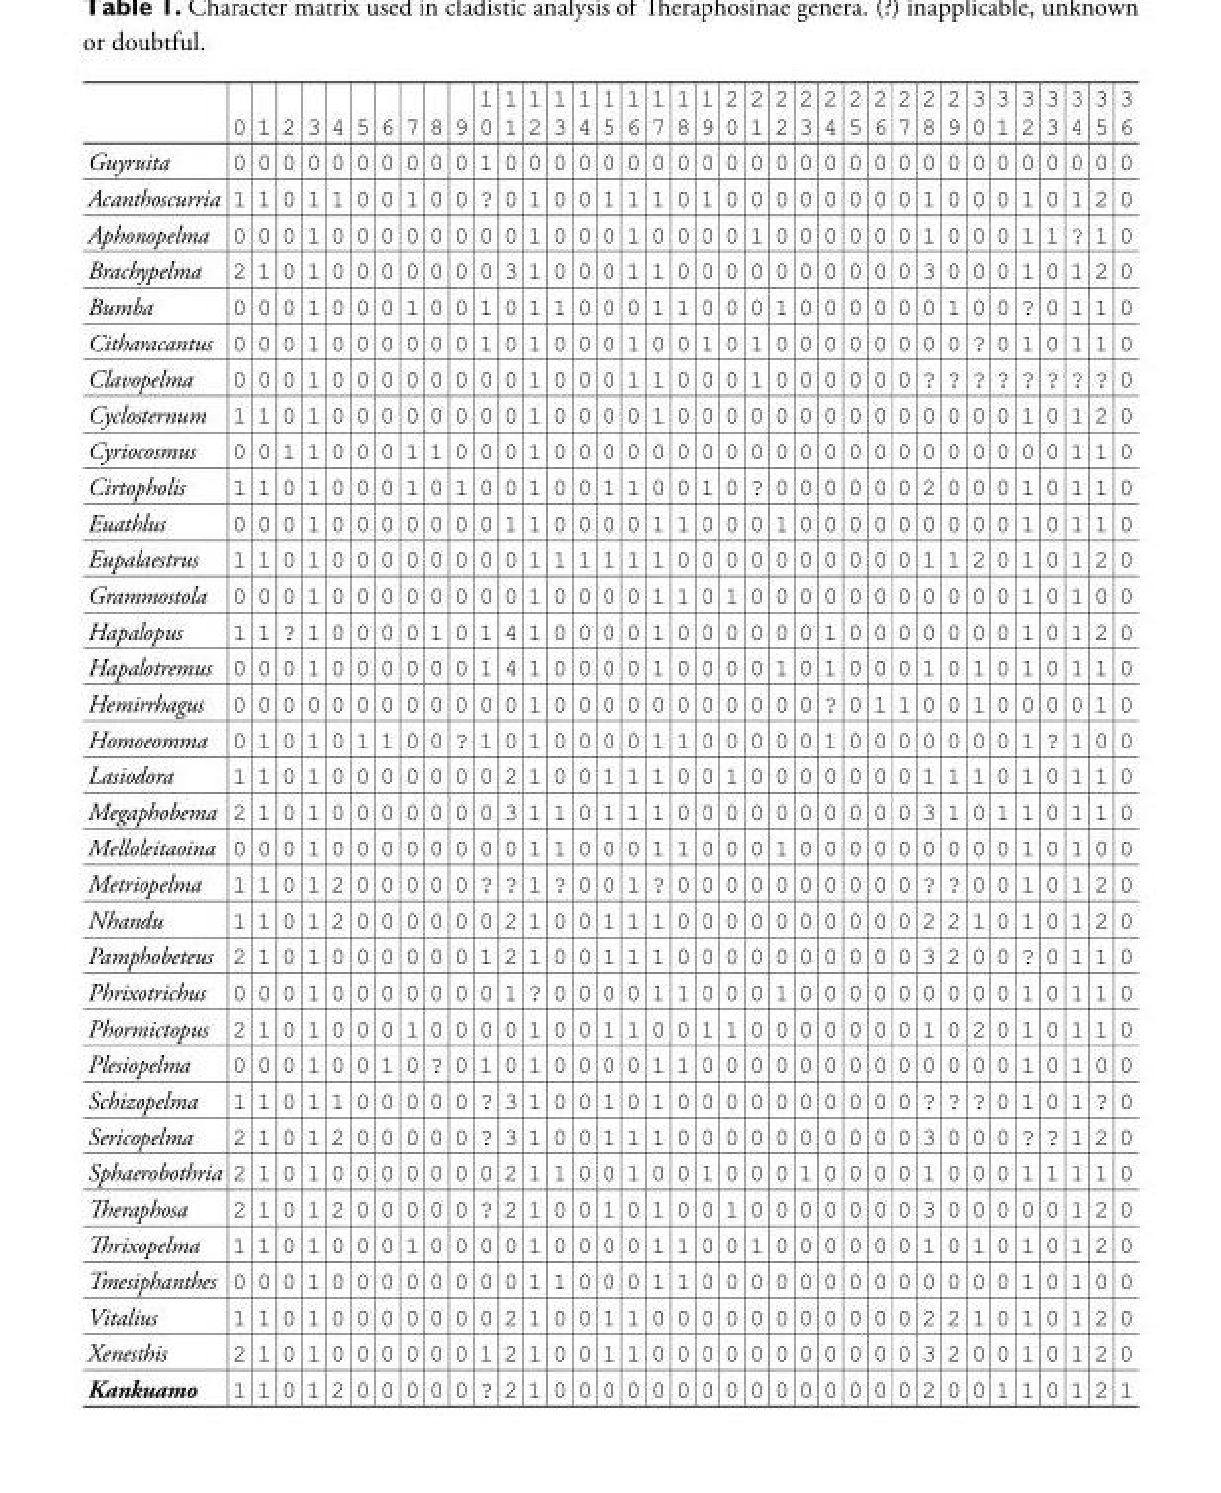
<table><thead><tr><td></td><td>0</td><td>1</td><td>2</td><td>3</td><td>4</td><td>5</td><td>6</td><td>7</td><td>8</td><td>9</td><td>1 0</td><td>1 1</td><td>1 2</td><td>1 3</td><td>1 4</td><td>1 5</td><td>1 6</td><td>1 7</td><td>1 8</td><td>1 9</td><td>2 0</td><td>2 1</td><td>2 2</td><td>2 3</td><td>2 4</td><td>2 5</td><td>2 6</td><td>2 7</td><td>2 8</td><td>2 9</td><td>3 0</td><td>3 1</td><td>3 2</td><td>3 3</td><td>3 4</td><td>3 5</td><td>3 6</td></tr></thead><tbody><tr><td>Guyruita</td><td>0</td><td>0</td><td>0</td><td>0</td><td>0</td><td>0</td><td>0</td><td>0</td><td>0</td><td>0</td><td>1</td><td>0</td><td>0</td><td>0</td><td>0</td><td>0</td><td>0</td><td>0</td><td>0</td><td>0</td><td>0</td><td>0</td><td>0</td><td>0</td><td>0</td><td>0</td><td>0</td><td>0</td><td>0</td><td>0</td><td>0</td><td>0</td><td>0</td><td>0</td><td>0</td><td>0</td><td>0</td></tr><tr><td>Acanthoscurria</td><td>1</td><td>1</td><td>0</td><td>1</td><td>1</td><td>0</td><td>0</td><td>1</td><td>0</td><td>0</td><td>?</td><td>0</td><td>1</td><td>0</td><td>0</td><td>1</td><td>1</td><td>1</td><td>0</td><td>1</td><td>0</td><td>0</td><td>0</td><td>0</td><td>0</td><td>0</td><td>0</td><td>0</td><td>1</td><td>0</td><td>0</td><td>0</td><td>1</td><td>0</td><td>1</td><td>2</td><td>0</td></tr><tr><td>Aphonopelma</td><td>0</td><td>0</td><td>0</td><td>1</td><td>0</td><td>0</td><td>0</td><td>0</td><td>0</td><td>0</td><td>0</td><td>0</td><td>1</td><td>0</td><td>0</td><td>0</td><td>1</td><td>0</td><td>0</td><td>0</td><td>0</td><td>1</td><td>0</td><td>0</td><td>0</td><td>0</td><td>0</td><td>0</td><td>1</td><td>0</td><td>0</td><td>0</td><td>1</td><td>1</td><td>?</td><td>1</td><td>0</td></tr><tr><td>Brachypelma</td><td>2</td><td>1</td><td>0</td><td>1</td><td>0</td><td>0</td><td>0</td><td>0</td><td>0</td><td>0</td><td>0</td><td>3</td><td>1</td><td>0</td><td>0</td><td>0</td><td>1</td><td>1</td><td>0</td><td>0</td><td>0</td><td>0</td><td>0</td><td>0</td><td>0</td><td>0</td><td>0</td><td>0</td><td>3</td><td>0</td><td>0</td><td>0</td><td>1</td><td>0</td><td>1</td><td>2</td><td>0</td></tr><tr><td>Bumba</td><td>0</td><td>0</td><td>0</td><td>1</td><td>0</td><td>0</td><td>0</td><td>1</td><td>0</td><td>0</td><td>1</td><td>0</td><td>1</td><td>1</td><td>0</td><td>0</td><td>0</td><td>1</td><td>1</td><td>0</td><td>0</td><td>0</td><td>1</td><td>0</td><td>0</td><td>0</td><td>0</td><td>0</td><td>0</td><td>1</td><td>0</td><td>0</td><td>?</td><td>0</td><td>1</td><td>1</td><td>0</td></tr><tr><td>Citharacantus</td><td>0</td><td>0</td><td>0</td><td>1</td><td>0</td><td>0</td><td>0</td><td>0</td><td>0</td><td>0</td><td>1</td><td>0</td><td>1</td><td>0</td><td>0</td><td>0</td><td>1</td><td>0</td><td>0</td><td>1</td><td>0</td><td>1</td><td>0</td><td>0</td><td>0</td><td>0</td><td>0</td><td>0</td><td>0</td><td>0</td><td>?</td><td>0</td><td>1</td><td>0</td><td>1</td><td>1</td><td>0</td></tr><tr><td>Clavopelma</td><td>0</td><td>0</td><td>0</td><td>1</td><td>0</td><td>0</td><td>0</td><td>0</td><td>0</td><td>0</td><td>0</td><td>0</td><td>1</td><td>0</td><td>0</td><td>0</td><td>1</td><td>1</td><td>0</td><td>0</td><td>0</td><td>1</td><td>0</td><td>0</td><td>0</td><td>0</td><td>0</td><td>0</td><td>?</td><td>?</td><td>?</td><td>?</td><td>?</td><td>?</td><td>?</td><td>?</td><td>0</td></tr><tr><td>Cyclosternum</td><td>1</td><td>1</td><td>0</td><td>1</td><td>0</td><td>0</td><td>0</td><td>0</td><td>0</td><td>0</td><td>0</td><td>0</td><td>1</td><td>0</td><td>0</td><td>0</td><td>0</td><td>1</td><td>0</td><td>0</td><td>0</td><td>0</td><td>0</td><td>0</td><td>0</td><td>0</td><td>0</td><td>0</td><td>0</td><td>0</td><td>0</td><td>0</td><td>1</td><td>0</td><td>1</td><td>2</td><td>0</td></tr><tr><td>Cyriocosmus</td><td>0</td><td>0</td><td>1</td><td>1</td><td>0</td><td>0</td><td>0</td><td>1</td><td>1</td><td>0</td><td>0</td><td>0</td><td>1</td><td>0</td><td>0</td><td>0</td><td>0</td><td>0</td><td>0</td><td>0</td><td>0</td><td>0</td><td>0</td><td>0</td><td>0</td><td>0</td><td>0</td><td>0</td><td>0</td><td>0</td><td>0</td><td>0</td><td>0</td><td>0</td><td>1</td><td>1</td><td>0</td></tr><tr><td>Cirtopholis</td><td>1</td><td>1</td><td>0</td><td>1</td><td>0</td><td>0</td><td>0</td><td>1</td><td>0</td><td>1</td><td>0</td><td>0</td><td>1</td><td>0</td><td>0</td><td>1</td><td>1</td><td>0</td><td>0</td><td>1</td><td>0</td><td>?</td><td>0</td><td>0</td><td>0</td><td>0</td><td>0</td><td>0</td><td>2</td><td>0</td><td>0</td><td>0</td><td>1</td><td>0</td><td>1</td><td>1</td><td>0</td></tr><tr><td>Euathlus</td><td>0</td><td>0</td><td>0</td><td>1</td><td>0</td><td>0</td><td>0</td><td>0</td><td>0</td><td>0</td><td>0</td><td>1</td><td>1</td><td>0</td><td>0</td><td>0</td><td>0</td><td>1</td><td>1</td><td>0</td><td>0</td><td>0</td><td>1</td><td>0</td><td>0</td><td>0</td><td>0</td><td>0</td><td>0</td><td>0</td><td>0</td><td>0</td><td>1</td><td>0</td><td>1</td><td>1</td><td>0</td></tr><tr><td>Eupalaestrus</td><td>1</td><td>1</td><td>0</td><td>1</td><td>0</td><td>0</td><td>0</td><td>0</td><td>0</td><td>0</td><td>0</td><td>0</td><td>1</td><td>1</td><td>1</td><td>1</td><td>1</td><td>1</td><td>0</td><td>0</td><td>0</td><td>0</td><td>0</td><td>0</td><td>0</td><td>0</td><td>0</td><td>0</td><td>1</td><td>1</td><td>2</td><td>0</td><td>1</td><td>0</td><td>1</td><td>2</td><td>0</td></tr><tr><td>Grammostola</td><td>0</td><td>0</td><td>0</td><td>1</td><td>0</td><td>0</td><td>0</td><td>0</td><td>0</td><td>0</td><td>0</td><td>0</td><td>1</td><td>0</td><td>0</td><td>0</td><td>0</td><td>1</td><td>1</td><td>0</td><td>1</td><td>0</td><td>0</td><td>0</td><td>0</td><td>0</td><td>0</td><td>0</td><td>0</td><td>0</td><td>0</td><td>0</td><td>1</td><td>0</td><td>1</td><td>0</td><td>0</td></tr><tr><td>Hapalopus</td><td>1</td><td>1</td><td>?</td><td>1</td><td>0</td><td>0</td><td>0</td><td>0</td><td>1</td><td>0</td><td>1</td><td>4</td><td>1</td><td>0</td><td>0</td><td>0</td><td>0</td><td>1</td><td>0</td><td>0</td><td>0</td><td>0</td><td>0</td><td>0</td><td>1</td><td>0</td><td>0</td><td>0</td><td>0</td><td>0</td><td>0</td><td>0</td><td>1</td><td>0</td><td>1</td><td>2</td><td>0</td></tr><tr><td>Hapalotremus</td><td>0</td><td>0</td><td>0</td><td>1</td><td>0</td><td>0</td><td>0</td><td>0</td><td>0</td><td>0</td><td>1</td><td>4</td><td>1</td><td>0</td><td>0</td><td>0</td><td>0</td><td>1</td><td>0</td><td>0</td><td>0</td><td>0</td><td>1</td><td>0</td><td>1</td><td>0</td><td>0</td><td>0</td><td>1</td><td>0</td><td>1</td><td>0</td><td>1</td><td>0</td><td>1</td><td>1</td><td>0</td></tr><tr><td>Hemirrhagus</td><td>0</td><td>0</td><td>0</td><td>0</td><td>0</td><td>0</td><td>0</td><td>0</td><td>0</td><td>0</td><td>0</td><td>0</td><td>1</td><td>0</td><td>0</td><td>0</td><td>0</td><td>0</td><td>0</td><td>0</td><td>0</td><td>0</td><td>0</td><td>0</td><td>?</td><td>0</td><td>1</td><td>1</td><td>0</td><td>0</td><td>1</td><td>0</td><td>0</td><td>0</td><td>0</td><td>1</td><td>0</td></tr><tr><td>Homoeomma</td><td>0</td><td>1</td><td>0</td><td>1</td><td>0</td><td>1</td><td>1</td><td>0</td><td>0</td><td>?</td><td>1</td><td>0</td><td>1</td><td>0</td><td>0</td><td>0</td><td>0</td><td>1</td><td>1</td><td>0</td><td>0</td><td>0</td><td>0</td><td>0</td><td>1</td><td>0</td><td>0</td><td>0</td><td>0</td><td>0</td><td>0</td><td>0</td><td>1</td><td>?</td><td>1</td><td>0</td><td>0</td></tr><tr><td>Lasiodora</td><td>1</td><td>1</td><td>0</td><td>1</td><td>0</td><td>0</td><td>0</td><td>0</td><td>0</td><td>0</td><td>0</td><td>2</td><td>1</td><td>0</td><td>0</td><td>1</td><td>1</td><td>1</td><td>0</td><td>0</td><td>1</td><td>0</td><td>0</td><td>0</td><td>0</td><td>0</td><td>0</td><td>0</td><td>1</td><td>1</td><td>1</td><td>0</td><td>1</td><td>0</td><td>1</td><td>1</td><td>0</td></tr><tr><td>Megaphobema</td><td>2</td><td>1</td><td>0</td><td>1</td><td>0</td><td>0</td><td>0</td><td>0</td><td>0</td><td>0</td><td>0</td><td>3</td><td>1</td><td>1</td><td>0</td><td>1</td><td>1</td><td>1</td><td>0</td><td>0</td><td>0</td><td>0</td><td>0</td><td>0</td><td>0</td><td>0</td><td>0</td><td>0</td><td>3</td><td>1</td><td>0</td><td>1</td><td>1</td><td>0</td><td>1</td><td>1</td><td>0</td></tr><tr><td>Melloleitaoina</td><td>0</td><td>0</td><td>0</td><td>1</td><td>0</td><td>0</td><td>0</td><td>0</td><td>0</td><td>0</td><td>0</td><td>0</td><td>1</td><td>1</td><td>0</td><td>0</td><td>0</td><td>1</td><td>1</td><td>0</td><td>0</td><td>0</td><td>1</td><td>0</td><td>0</td><td>0</td><td>0</td><td>0</td><td>0</td><td>0</td><td>0</td><td>0</td><td>1</td><td>0</td><td>1</td><td>0</td><td>0</td></tr><tr><td>Metriopelma</td><td>1</td><td>1</td><td>0</td><td>1</td><td>2</td><td>0</td><td>0</td><td>0</td><td>0</td><td>0</td><td>?</td><td>?</td><td>1</td><td>?</td><td>0</td><td>0</td><td>1</td><td>?</td><td>0</td><td>0</td><td>0</td><td>0</td><td>0</td><td>0</td><td>0</td><td>0</td><td>0</td><td>0</td><td>?</td><td>?</td><td>0</td><td>0</td><td>1</td><td>0</td><td>1</td><td>2</td><td>0</td></tr><tr><td>Nhandu</td><td>1</td><td>1</td><td>0</td><td>1</td><td>2</td><td>0</td><td>0</td><td>0</td><td>0</td><td>0</td><td>0</td><td>2</td><td>1</td><td>0</td><td>0</td><td>1</td><td>1</td><td>1</td><td>0</td><td>0</td><td>0</td><td>0</td><td>0</td><td>0</td><td>0</td><td>0</td><td>0</td><td>0</td><td>2</td><td>2</td><td>1</td><td>0</td><td>1</td><td>0</td><td>1</td><td>2</td><td>0</td></tr><tr><td>Pamphobeteus</td><td>2</td><td>1</td><td>0</td><td>1</td><td>0</td><td>0</td><td>0</td><td>0</td><td>0</td><td>0</td><td>1</td><td>2</td><td>1</td><td>0</td><td>0</td><td>1</td><td>1</td><td>1</td><td>0</td><td>0</td><td>0</td><td>0</td><td>0</td><td>0</td><td>0</td><td>0</td><td>0</td><td>0</td><td>3</td><td>2</td><td>0</td><td>0</td><td>?</td><td>0</td><td>1</td><td>1</td><td>0</td></tr><tr><td>Phrixotrichus</td><td>0</td><td>0</td><td>0</td><td>1</td><td>0</td><td>0</td><td>0</td><td>0</td><td>0</td><td>0</td><td>0</td><td>1</td><td>?</td><td>0</td><td>0</td><td>0</td><td>0</td><td>1</td><td>1</td><td>0</td><td>0</td><td>0</td><td>1</td><td>0</td><td>0</td><td>0</td><td>0</td><td>0</td><td>0</td><td>0</td><td>0</td><td>0</td><td>1</td><td>0</td><td>1</td><td>1</td><td>0</td></tr><tr><td>Phormictopus</td><td>2</td><td>1</td><td>0</td><td>1</td><td>0</td><td>0</td><td>0</td><td>1</td><td>0</td><td>0</td><td>0</td><td>0</td><td>1</td><td>0</td><td>0</td><td>1</td><td>1</td><td>0</td><td>0</td><td>1</td><td>1</td><td>0</td><td>0</td><td>0</td><td>0</td><td>0</td><td>0</td><td>0</td><td>1</td><td>0</td><td>2</td><td>0</td><td>1</td><td>0</td><td>1</td><td>1</td><td>0</td></tr><tr><td>Plesiopelma</td><td>0</td><td>0</td><td>0</td><td>1</td><td>0</td><td>0</td><td>1</td><td>0</td><td>?</td><td>0</td><td>1</td><td>0</td><td>1</td><td>0</td><td>0</td><td>0</td><td>0</td><td>1</td><td>1</td><td>0</td><td>0</td><td>0</td><td>0</td><td>0</td><td>0</td><td>0</td><td>0</td><td>0</td><td>0</td><td>0</td><td>0</td><td>0</td><td>1</td><td>0</td><td>1</td><td>0</td><td>0</td></tr><tr><td>Schizopelma</td><td>1</td><td>1</td><td>0</td><td>1</td><td>1</td><td>0</td><td>0</td><td>0</td><td>0</td><td>0</td><td>?</td><td>3</td><td>1</td><td>0</td><td>0</td><td>1</td><td>0</td><td>1</td><td>0</td><td>0</td><td>0</td><td>0</td><td>0</td><td>0</td><td>0</td><td>0</td><td>0</td><td>0</td><td>?</td><td>?</td><td>?</td><td>0</td><td>1</td><td>0</td><td>1</td><td>?</td><td>0</td></tr><tr><td>Sericopelma</td><td>2</td><td>1</td><td>0</td><td>1</td><td>2</td><td>0</td><td>0</td><td>0</td><td>0</td><td>0</td><td>?</td><td>3</td><td>1</td><td>0</td><td>0</td><td>1</td><td>1</td><td>1</td><td>0</td><td>0</td><td>0</td><td>0</td><td>0</td><td>0</td><td>0</td><td>0</td><td>0</td><td>0</td><td>3</td><td>0</td><td>0</td><td>0</td><td>?</td><td>?</td><td>1</td><td>2</td><td>0</td></tr><tr><td>Sphaerobothria</td><td>2</td><td>1</td><td>0</td><td>1</td><td>0</td><td>0</td><td>0</td><td>0</td><td>0</td><td>0</td><td>0</td><td>2</td><td>1</td><td>1</td><td>0</td><td>0</td><td>1</td><td>0</td><td>0</td><td>1</td><td>0</td><td>0</td><td>0</td><td>1</td><td>0</td><td>0</td><td>0</td><td>0</td><td>1</td><td>0</td><td>0</td><td>0</td><td>1</td><td>1</td><td>1</td><td>1</td><td>0</td></tr><tr><td>Theraphosa</td><td>2</td><td>1</td><td>0</td><td>1</td><td>2</td><td>0</td><td>0</td><td>0</td><td>0</td><td>0</td><td>?</td><td>2</td><td>1</td><td>0</td><td>0</td><td>1</td><td>0</td><td>1</td><td>0</td><td>0</td><td>1</td><td>0</td><td>0</td><td>0</td><td>0</td><td>0</td><td>0</td><td>0</td><td>3</td><td>0</td><td>0</td><td>0</td><td>0</td><td>0</td><td>1</td><td>2</td><td>0</td></tr><tr><td>Thrixopelma</td><td>1</td><td>1</td><td>0</td><td>1</td><td>0</td><td>0</td><td>0</td><td>1</td><td>0</td><td>0</td><td>0</td><td>0</td><td>1</td><td>0</td><td>0</td><td>0</td><td>0</td><td>1</td><td>1</td><td>0</td><td>0</td><td>1</td><td>0</td><td>0</td><td>0</td><td>0</td><td>0</td><td>0</td><td>1</td><td>0</td><td>1</td><td>0</td><td>1</td><td>0</td><td>1</td><td>2</td><td>0</td></tr><tr><td>Tmesiphanthes</td><td>0</td><td>0</td><td>0</td><td>1</td><td>0</td><td>0</td><td>0</td><td>0</td><td>0</td><td>0</td><td>0</td><td>0</td><td>1</td><td>1</td><td>0</td><td>0</td><td>0</td><td>1</td><td>1</td><td>0</td><td>0</td><td>0</td><td>0</td><td>0</td><td>0</td><td>0</td><td>0</td><td>0</td><td>0</td><td>0</td><td>0</td><td>0</td><td>1</td><td>0</td><td>1</td><td>0</td><td>0</td></tr><tr><td>Vitalius</td><td>1</td><td>1</td><td>0</td><td>1</td><td>0</td><td>0</td><td>0</td><td>0</td><td>0</td><td>0</td><td>0</td><td>2</td><td>1</td><td>0</td><td>0</td><td>1</td><td>1</td><td>0</td><td>0</td><td>0</td><td>0</td><td>0</td><td>0</td><td>0</td><td>0</td><td>0</td><td>0</td><td>0</td><td>2</td><td>2</td><td>1</td><td>0</td><td>1</td><td>0</td><td>1</td><td>2</td><td>0</td></tr><tr><td>Xenesthis</td><td>2</td><td>1</td><td>0</td><td>1</td><td>0</td><td>0</td><td>0</td><td>0</td><td>0</td><td>0</td><td>1</td><td>2</td><td>1</td><td>0</td><td>0</td><td>1</td><td>1</td><td>0</td><td>0</td><td>0</td><td>0</td><td>0</td><td>0</td><td>0</td><td>0</td><td>0</td><td>0</td><td>0</td><td>3</td><td>2</td><td>0</td><td>0</td><td>1</td><td>0</td><td>1</td><td>2</td><td>0</td></tr><tr><td>Kankuamo</td><td>1</td><td>1</td><td>0</td><td>1</td><td>2</td><td>0</td><td>0</td><td>0</td><td>0</td><td>0</td><td>?</td><td>2</td><td>1</td><td>0</td><td>0</td><td>0</td><td>0</td><td>0</td><td>0</td><td>0</td><td>0</td><td>0</td><td>0</td><td>0</td><td>0</td><td>0</td><td>0</td><td>0</td><td>2</td><td>0</td><td>0</td><td>1</td><td>1</td><td>0</td><td>1</td><td>2</td><td>1</td></tr></tbody></table>